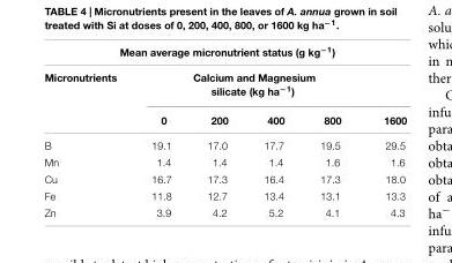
<table><thead><tr><td colspan="6">Mean average micronutrient status (g kg<sup>−1</sup>)</td></tr><tr><td rowspan="2">Micronutrients</td><td colspan="5">Calcium and Magnesium silicate (kg ha<sup>−1</sup>)</td></tr><tr><td>0</td><td>200</td><td>400</td><td>800</td><td>1600</td></tr></thead><tbody><tr><td>B</td><td>19.1</td><td>17.0</td><td>17.7</td><td>19.5</td><td>29.5</td></tr><tr><td>Mn</td><td>1.4</td><td>1.4</td><td>1.4</td><td>1.6</td><td>1.6</td></tr><tr><td>Cu</td><td>16.7</td><td>17.3</td><td>16.4</td><td>17.3</td><td>18.0</td></tr><tr><td>Fe</td><td>11.8</td><td>12.7</td><td>13.4</td><td>13.1</td><td>13.3</td></tr><tr><td>Zn</td><td>3.9</td><td>4.2</td><td>5.2</td><td>4.1</td><td>4.3</td></tr></tbody></table>